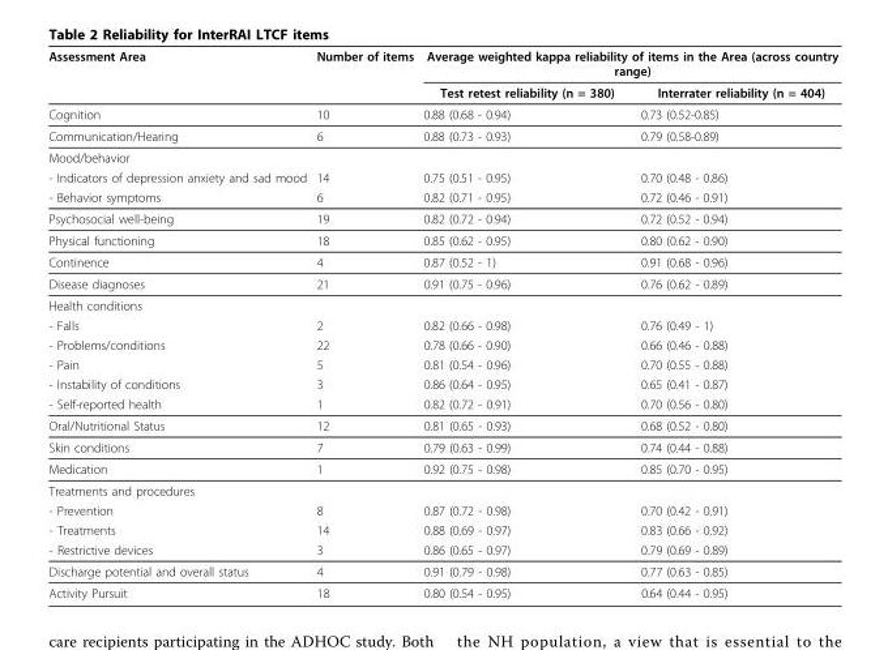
<table><thead><tr><td rowspan="2">Assessment Area</td><td rowspan="2">Number of items</td><td colspan="2">Average weighted kappa reliability of items in the Area (across country range)</td></tr><tr><td>Test retest reliability (n = 380)</td><td>Interrater reliability (n = 404)</td></tr></thead><tbody><tr><td>Cognition</td><td>10</td><td>0.88 (0.68 - 0.94)</td><td>0.73 (0.52-0.85)</td></tr><tr><td>Communication/Hearing</td><td>6</td><td>0.88 (0.73 - 0.93)</td><td>0.79 (0.58-0.89)</td></tr><tr><td colspan="4">Mood/behavior</td></tr><tr><td>- Indicators of depression anxiety and sad mood</td><td>14</td><td>0.75 (0.51 - 0.95)</td><td>0.70 (0.48 - 0.86)</td></tr><tr><td>- Behavior symptoms</td><td>6</td><td>0.82 (0.71 - 0.95)</td><td>0.72 (0.46 - 0.91)</td></tr><tr><td>Psychosocial well-being</td><td>19</td><td>0.82 (0.72 - 0.94)</td><td>0.72 (0.52 - 0.94)</td></tr><tr><td>Physical functioning</td><td>18</td><td>0.85 (0.62 - 0.95)</td><td>0.80 (0.62 - 0.90)</td></tr><tr><td>Continence</td><td>4</td><td>0.87 (0.52 - 1)</td><td>0.91 (0.68 - 0.96)</td></tr><tr><td>Disease diagnoses</td><td>21</td><td>0.91 (0.75 - 0.96)</td><td>0.76 (0.62 - 0.89)</td></tr><tr><td colspan="4">Health conditions</td></tr><tr><td>- Falls</td><td>2</td><td>0.82 (0.66 - 0.98)</td><td>0.76 (0.49 - 1)</td></tr><tr><td>- Problems/conditions</td><td>22</td><td>0.78 (0.66 - 0.90)</td><td>0.66 (0.46 - 0.88)</td></tr><tr><td>- Pain</td><td>5</td><td>0.81 (0.54 - 0.96)</td><td>0.70 (0.55 - 0.88)</td></tr><tr><td>- Instability of conditions</td><td>3</td><td>0.86 (0.64 - 0.95)</td><td>0.65 (0.41 - 0.87)</td></tr><tr><td>- Self-reported health</td><td>1</td><td>0.82 (0.72 - 0.91)</td><td>0.70 (0.56 - 0.80)</td></tr><tr><td>Oral/Nutritional Status</td><td>12</td><td>0.81 (0.65 - 0.93)</td><td>0.68 (0.52 - 0.80)</td></tr><tr><td>Skin conditions</td><td>7</td><td>0.79 (0.63 - 0.99)</td><td>0.74 (0.44 - 0.88)</td></tr><tr><td>Medication</td><td>1</td><td>0.92 (0.75 - 0.98)</td><td>0.85 (0.70 - 0.95)</td></tr><tr><td colspan="4">Treatments and procedures</td></tr><tr><td>- Prevention</td><td>8</td><td>0.87 (0.72 - 0.98)</td><td>0.70 (0.42 - 0.91)</td></tr><tr><td>- Treatments</td><td>14</td><td>0.88 (0.69 - 0.97)</td><td>0.83 (0.66 - 0.92)</td></tr><tr><td>- Restrictive devices</td><td>3</td><td>0.86 (0.65 - 0.97)</td><td>0.79 (0.69 - 0.89)</td></tr><tr><td>Discharge potential and overall status</td><td>4</td><td>0.91 (0.79 - 0.98)</td><td>0.77 (0.63 - 0.85)</td></tr><tr><td>Activity Pursuit</td><td>18</td><td>0.80 (0.54 - 0.95)</td><td>0.64 (0.44 - 0.95)</td></tr></tbody></table>